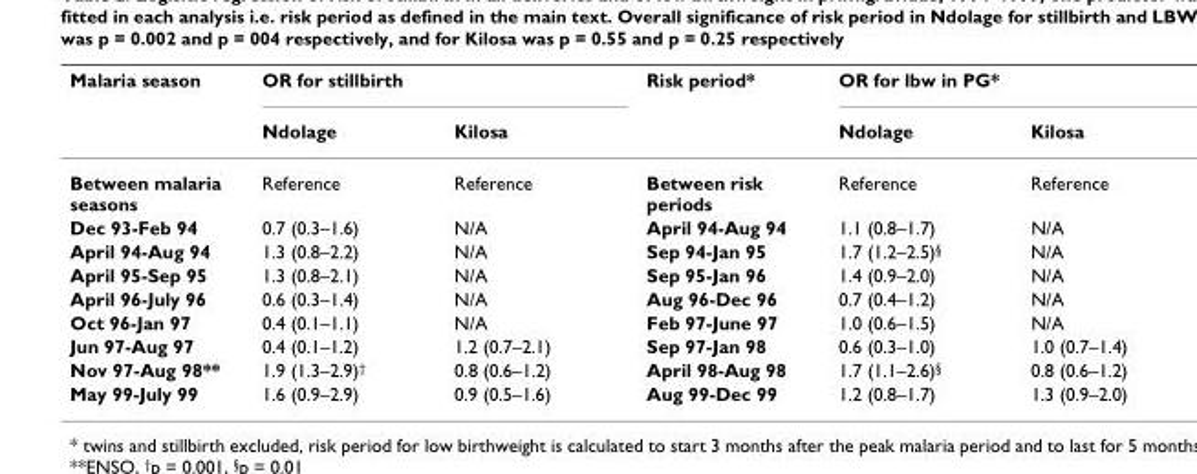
<table><thead><tr><td rowspan="2">Malaria season</td><td colspan="2">OR for stillbirth</td><td rowspan="2">Risk period*</td><td colspan="2">OR for lbw in PG*</td></tr><tr><td>Ndolage</td><td>Kilosa</td><td>Ndolage</td><td>Kilosa</td></tr></thead><tbody><tr><td>Between malaria seasons</td><td>Reference</td><td>Reference</td><td>Between risk periods</td><td>Reference</td><td>Reference</td></tr><tr><td>Dec 93-Feb 94</td><td>0.7 (0.3–1.6)</td><td>N/A</td><td>April 94-Aug 94</td><td>1.1 (0.8–1.7)</td><td>N/A</td></tr><tr><td>April 94-Aug 94</td><td>1.3 (0.8–2.2)</td><td>N/A</td><td>Sep 94-Jan 95</td><td>1.7 (1.2–2.5)<sup>§</sup></td><td>N/A</td></tr><tr><td>April 95-Sep 95</td><td>1.3 (0.8–2.1)</td><td>N/A</td><td>Sep 95-Jan 96</td><td>1.4 (0.9–2.0)</td><td>N/A</td></tr><tr><td>April 96-July 96</td><td>0.6 (0.3–1.4)</td><td>N/A</td><td>Aug 96-Dec 96</td><td>0.7 (0.4–1.2)</td><td>N/A</td></tr><tr><td>Oct 96-Jan 97</td><td>0.4 (0.1–1.1)</td><td>N/A</td><td>Feb 97-June 97</td><td>1.0 (0.6–1.5)</td><td>N/A</td></tr><tr><td>Jun 97-Aug 97</td><td>0.4 (0.1–1.2)</td><td>1.2 (0.7–2.1)</td><td>Sep 97-Jan 98</td><td>0.6 (0.3–1.0)</td><td>1.0 (0.7–1.4)</td></tr><tr><td>Nov 97-Aug 98**</td><td>1.9 (1.3–2.9)<sup>†</sup></td><td>0.8 (0.6–1.2)</td><td>April 98-Aug 98</td><td>1.7 (1.1–2.6)<sup>§</sup></td><td>0.8 (0.6–1.2)</td></tr><tr><td>May 99-July 99</td><td>1.6 (0.9–2.9)</td><td>0.9 (0.5–1.6)</td><td>Aug 99-Dec 99</td><td>1.2 (0.8–1.7)</td><td>1.3 (0.9–2.0)</td></tr></tbody></table>